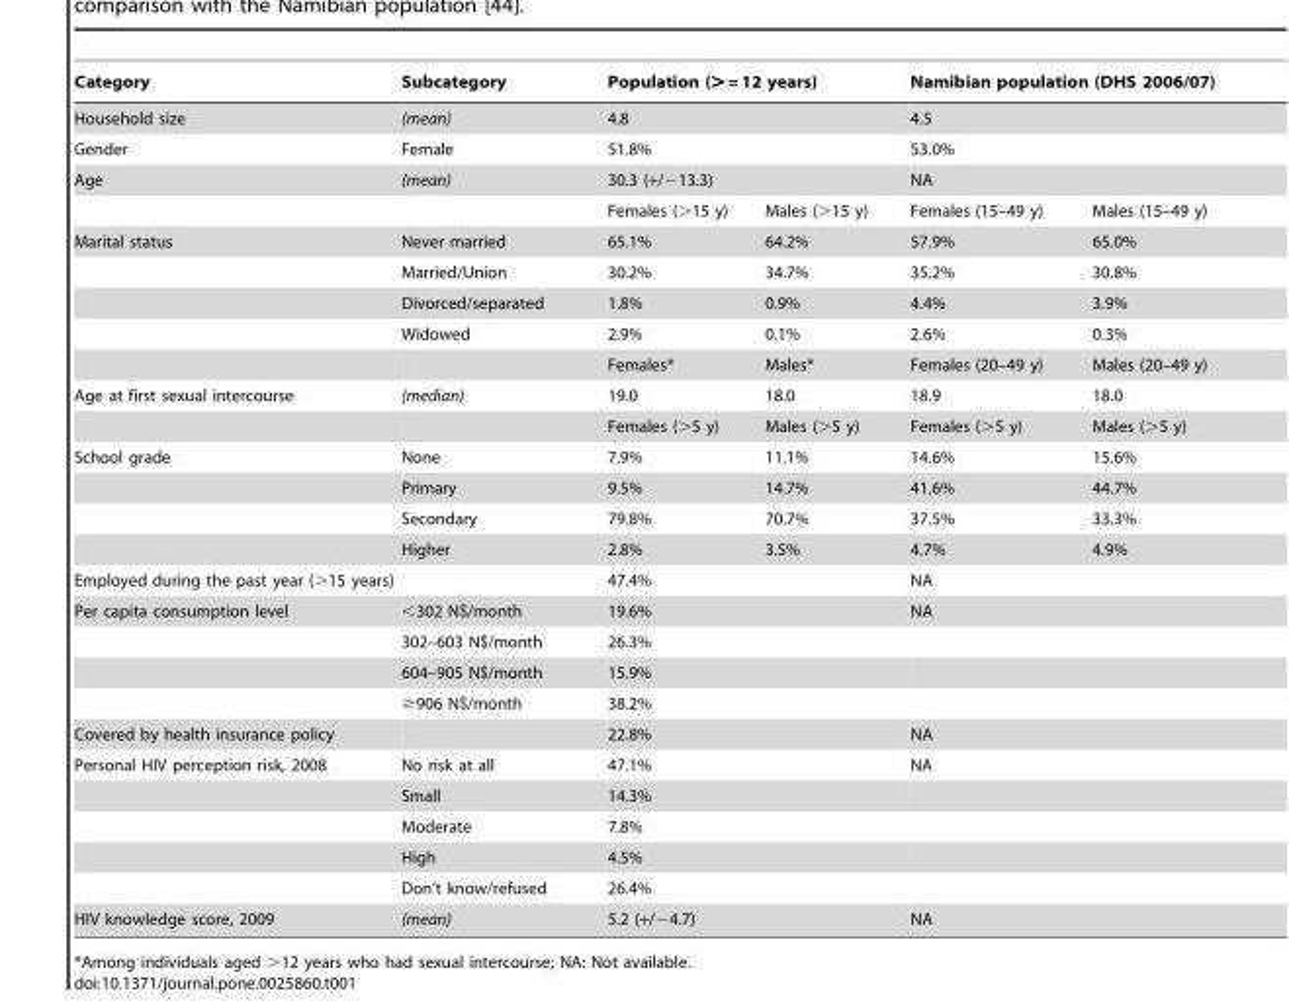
<table><thead><tr><td>Category</td><td>Subcategory</td><td colspan="2">Population (&gt; = 12 years)</td><td colspan="2">Namibian population (DHS 2006/07)</td></tr></thead><tbody><tr><td>Household size</td><td>(mean)</td><td colspan="2">4.8</td><td colspan="2">4.5</td></tr><tr><td>Gender</td><td>Female</td><td colspan="2">51.8%</td><td colspan="2">53.0%</td></tr><tr><td rowspan="2">Age</td><td>(mean)</td><td colspan="2">30.3 (+/−13.3)</td><td colspan="2">NA</td></tr><tr><td></td><td>Females (&gt;15 y)</td><td>Males (&gt;15 y)</td><td>Females (15–49 y)</td><td>Males (15–49 y)</td></tr><tr><td rowspan="5">Marital status</td><td>Never married</td><td>65.1%</td><td>64.2%</td><td>57.9%</td><td>65.0%</td></tr><tr><td>Married/Union</td><td>30.2%</td><td>34.7%</td><td>35.2%</td><td>30.8%</td></tr><tr><td>Divorced/separated</td><td>1.8%</td><td>0.9%</td><td>4.4%</td><td>3.9%</td></tr><tr><td>Widowed</td><td>2.9%</td><td>0.1%</td><td>2.6%</td><td>0.3%</td></tr><tr><td></td><td>Females*</td><td>Males*</td><td>Females (20–49 y)</td><td>Males (20–49 y)</td></tr><tr><td rowspan="2">Age at first sexual intercourse</td><td>(median)</td><td>19.0</td><td>18.0</td><td>18.9</td><td>18.0</td></tr><tr><td></td><td>Females (&gt;5 y)</td><td>Males (&gt;5 y)</td><td>Females (&gt;5 y)</td><td>Males (&gt;5 y)</td></tr><tr><td rowspan="4">School grade</td><td>None</td><td>7.9%</td><td>11.1%</td><td>14.6%</td><td>15.6%</td></tr><tr><td>Primary</td><td>9.5%</td><td>14.7%</td><td>41.6%</td><td>44.7%</td></tr><tr><td>Secondary</td><td>79.8%</td><td>70.7%</td><td>37.5%</td><td>33.3%</td></tr><tr><td>Higher</td><td>2.8%</td><td>3.5%</td><td>4.7%</td><td>4.9%</td></tr><tr><td>Employed during the past year (&gt;15 years)</td><td></td><td colspan="2">47.4%</td><td colspan="2">NA</td></tr><tr><td rowspan="4">Per capita consumption level</td><td>&lt;302 N$/month</td><td colspan="2">19.6%</td><td colspan="2">NA</td></tr><tr><td>302–603 N$/month</td><td colspan="2">26.3%</td><td colspan="2"></td></tr><tr><td>604–905 N$/month</td><td colspan="2">15.9%</td><td colspan="2"></td></tr><tr><td>≥906 N$/month</td><td colspan="2">38.2%</td><td colspan="2"></td></tr><tr><td>Covered by health insurance policy</td><td></td><td colspan="2">22.8%</td><td colspan="2">NA</td></tr><tr><td rowspan="5">Personal HIV perception risk, 2008</td><td>No risk at all</td><td colspan="2">47.1%</td><td colspan="2">NA</td></tr><tr><td>Small</td><td colspan="2">14.3%</td><td colspan="2"></td></tr><tr><td>Moderate</td><td colspan="2">7.8%</td><td colspan="2"></td></tr><tr><td>High</td><td colspan="2">4.5%</td><td colspan="2"></td></tr><tr><td>Don’t know/refused</td><td colspan="2">26.4%</td><td colspan="2"></td></tr><tr><td>HIV knowledge score, 2009</td><td>(mean)</td><td colspan="2">5.2 (+/−4.7)</td><td colspan="2">NA</td></tr></tbody></table>